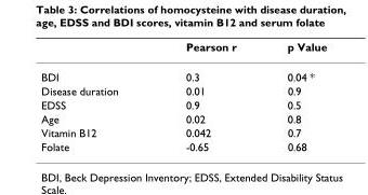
<table><thead><tr><td></td><td>Pearson r</td><td>p Value</td></tr></thead><tbody><tr><td>BDI</td><td>0.3</td><td>0.04 *</td></tr><tr><td>Disease duration</td><td>0.01</td><td>0.9</td></tr><tr><td>EDSS</td><td>0.9</td><td>0.5</td></tr><tr><td>Age</td><td>0.02</td><td>0.8</td></tr><tr><td>Vitamin B12</td><td>0.042</td><td>0.7</td></tr><tr><td>Folate</td><td>-0.65</td><td>0.68</td></tr></tbody></table>